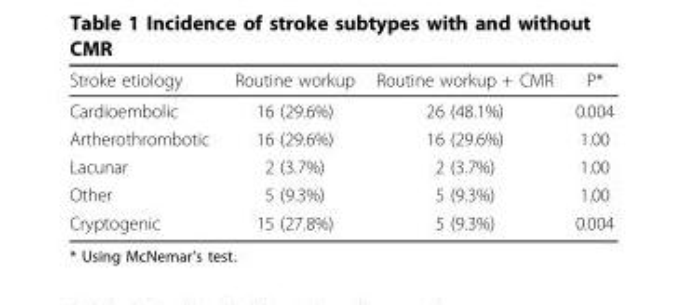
<table><thead><tr><td>Stroke etiology</td><td>Routine workup</td><td>Routine workup + CMR</td><td>P*</td></tr></thead><tbody><tr><td>Cardioembolic</td><td>16 (29.6%)</td><td>26 (48.1%)</td><td>0.004</td></tr><tr><td>Artherothrombotic</td><td>16 (29.6%)</td><td>16 (29.6%)</td><td>1.00</td></tr><tr><td>Lacunar</td><td>2 (3.7%)</td><td>2 (3.7%)</td><td>1.00</td></tr><tr><td>Other</td><td>5 (9.3%)</td><td>5 (9.3%)</td><td>1.00</td></tr><tr><td>Cryptogenic</td><td>15 (27.8%)</td><td>5 (9.3%)</td><td>0.004</td></tr></tbody></table>